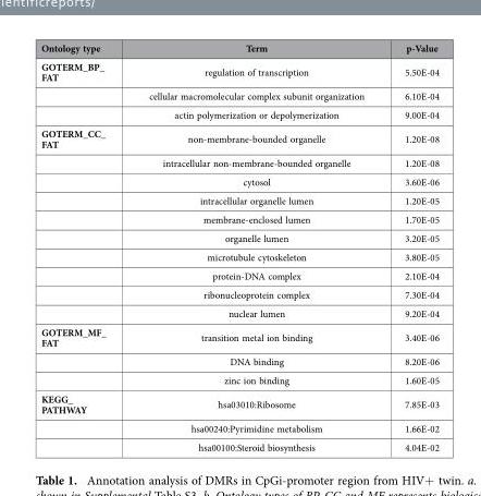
<table><thead><tr><td>Ontology type</td><td>Term</td><td>p-Value</td></tr></thead><tbody><tr><td rowspan="3">GOTERM_BP_ FAT</td><td>regulation of transcription</td><td>5.50E-04</td></tr><tr><td>cellular macromolecular complex subunit organization</td><td>6.10E-04</td></tr><tr><td>actin polymerization or depolymerization</td><td>9.00E-04</td></tr><tr><td rowspan="10">GOTERM_CC_ FAT</td><td>non-membrane-bounded organelle</td><td>1.20E-08</td></tr><tr><td>intracellular non-membrane-bounded organelle</td><td>1.20E-08</td></tr><tr><td>cytosol</td><td>3.60E-06</td></tr><tr><td>intracellular organelle lumen</td><td>1.20E-05</td></tr><tr><td>membrane-enclosed lumen</td><td>1.70E-05</td></tr><tr><td>organelle lumen</td><td>3.20E-05</td></tr><tr><td>microtubule cytoskeleton</td><td>3.80E-05</td></tr><tr><td>protein-DNA complex</td><td>2.10E-04</td></tr><tr><td>ribonucleoprotein complex</td><td>7.30E-04</td></tr><tr><td>nuclear lumen</td><td>9.20E-04</td></tr><tr><td rowspan="3">GOTERM_MF_ FAT</td><td>transition metal ion binding</td><td>3.40E-06</td></tr><tr><td>DNA binding</td><td>8.20E-06</td></tr><tr><td>zinc ion binding</td><td>1.60E-05</td></tr><tr><td rowspan="3">KEGG_ PATHWAY</td><td>hsa03010:Ribosome</td><td>7.85E-03</td></tr><tr><td>hsa00240:Pyrimidine metabolism</td><td>1.66E-02</td></tr><tr><td>hsa00100:Steroid biosynthesis</td><td>4.04E-02</td></tr></tbody></table>